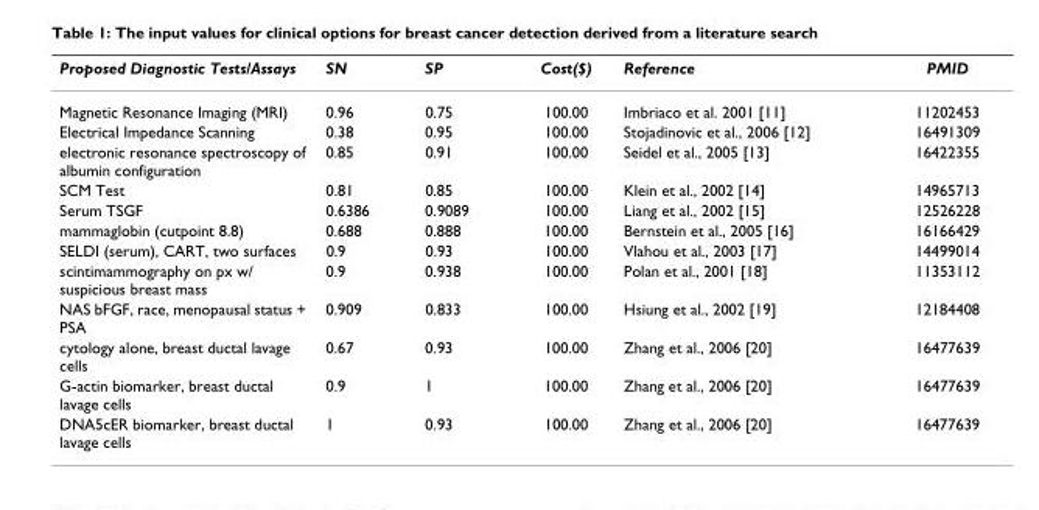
<table><thead><tr><td>Proposed Diagnostic Tests/Assays</td><td>SN</td><td>SP</td><td>Cost($)</td><td>Reference</td><td>PMID</td></tr></thead><tbody><tr><td>Magnetic Resonance Imaging (MRI)</td><td>0.96</td><td>0.75</td><td>100.00</td><td>Imbriaco et al. 2001 [11]</td><td>11202453</td></tr><tr><td>Electrical Impedance Scanning</td><td>0.38</td><td>0.95</td><td>100.00</td><td>Stojadinovic et al., 2006 [12]</td><td>16491309</td></tr><tr><td>electronic resonance spectroscopy of albumin configuration</td><td>0.85</td><td>0.91</td><td>100.00</td><td>Seidel et al., 2005 [13]</td><td>16422355</td></tr><tr><td>SCM Test</td><td>0.81</td><td>0.85</td><td>100.00</td><td>Klein et al., 2002 [14]</td><td>14965713</td></tr><tr><td>Serum TSGF</td><td>0.6386</td><td>0.9089</td><td>100.00</td><td>Liang et al., 2002 [15]</td><td>12526228</td></tr><tr><td>mammaglobin (cutpoint 8.8)</td><td>0.688</td><td>0.888</td><td>100.00</td><td>Bernstein et al., 2005 [16]</td><td>16166429</td></tr><tr><td>SELDI (serum), CART, two surfaces</td><td>0.9</td><td>0.93</td><td>100.00</td><td>Vlahou et al., 2003 [17]</td><td>14499014</td></tr><tr><td>scintimammography on px w/ suspicious breast mass</td><td>0.9</td><td>0.938</td><td>100.00</td><td>Polan et al., 2001 [18]</td><td>11353112</td></tr><tr><td>NAS bFGF, race, menopausal status + PSA</td><td>0.909</td><td>0.833</td><td>100.00</td><td>Hsiung et al., 2002 [19]</td><td>12184408</td></tr><tr><td>cytology alone, breast ductal lavage cells</td><td>0.67</td><td>0.93</td><td>100.00</td><td>Zhang et al., 2006 [20]</td><td>16477639</td></tr><tr><td>G-actin biomarker, breast ductal lavage cells</td><td>0.9</td><td>1</td><td>100.00</td><td>Zhang et al., 2006 [20]</td><td>16477639</td></tr><tr><td>DNA5cER biomarker, breast ductal lavage cells</td><td>1</td><td>0.93</td><td>100.00</td><td>Zhang et al., 2006 [20]</td><td>16477639</td></tr></tbody></table>